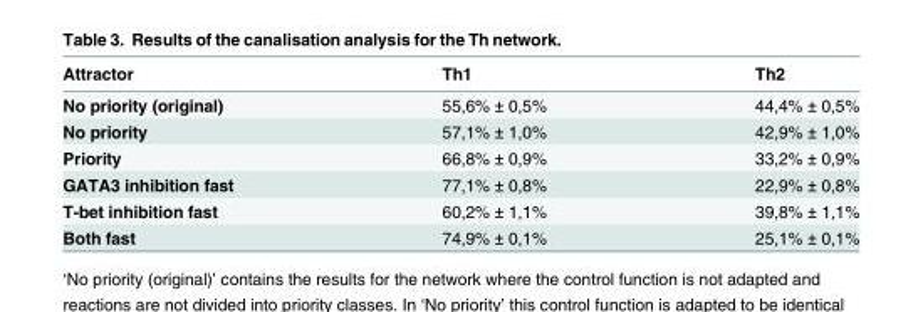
<table><thead><tr><td>Attractor</td><td>Th1</td><td>Th2</td></tr></thead><tbody><tr><td>No priority (original)</td><td>55,6% ± 0,5%</td><td>44,4% ± 0,5%</td></tr><tr><td>No priority</td><td>57,1% ± 1,0%</td><td>42,9% ± 1,0%</td></tr><tr><td>Priority</td><td>66,8% ± 0,9%</td><td>33,2% ± 0,9%</td></tr><tr><td>GATA3 inhibition fast</td><td>77,1% ± 0,8%</td><td>22,9% ± 0,8%</td></tr><tr><td>T-bet inhibition fast</td><td>60,2% ± 1,1%</td><td>39,8% ± 1,1%</td></tr><tr><td>Both fast</td><td>74,9% ± 0,1%</td><td>25,1% ± 0,1%</td></tr></tbody></table>